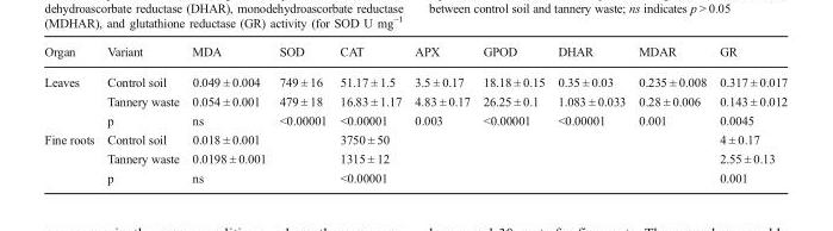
<table><thead><tr><td>Organ</td><td>Variant</td><td>MDA</td><td>SOD</td><td>CAT</td><td>APX</td><td>GPOD</td><td>DHAR</td><td>MDAR</td><td>GR</td></tr></thead><tbody><tr><td rowspan="3">Leaves</td><td>Control soil</td><td>0.049 ± 0.004</td><td>749 ± 16</td><td>51.17 ± 1.5</td><td>3.5 ± 0.17</td><td>18.18 ± 0.15</td><td>0.35 ± 0.03</td><td>0.235 ± 0.008</td><td>0.317 ± 0.017</td></tr><tr><td>Tannery waste</td><td>0.054 ± 0.001</td><td>479 ± 18</td><td>16.83 ± 1.17</td><td>4.83 ± 0.17</td><td>26.25 ± 0.1</td><td>1.083 ± 0.033</td><td>0.28 ± 0.006</td><td>0.143 ± 0.012</td></tr><tr><td>p</td><td>ns</td><td>&lt;0.00001</td><td>&lt;0.00001</td><td>0.003</td><td>&lt;0.00001</td><td>&lt;0.00001</td><td>0.001</td><td>0.0045</td></tr><tr><td rowspan="3">Fine roots</td><td>Control soil</td><td>0.018 ± 0.001</td><td></td><td>3750 ± 50</td><td></td><td></td><td></td><td></td><td>4 ± 0.17</td></tr><tr><td>Tannery waste</td><td>0.0198 ± 0.001</td><td></td><td>1315 ± 12</td><td></td><td></td><td></td><td></td><td>2.55 ± 0.13</td></tr><tr><td>p</td><td>ns</td><td></td><td>&lt;0.00001</td><td></td><td></td><td></td><td></td><td>0.001</td></tr></tbody></table>